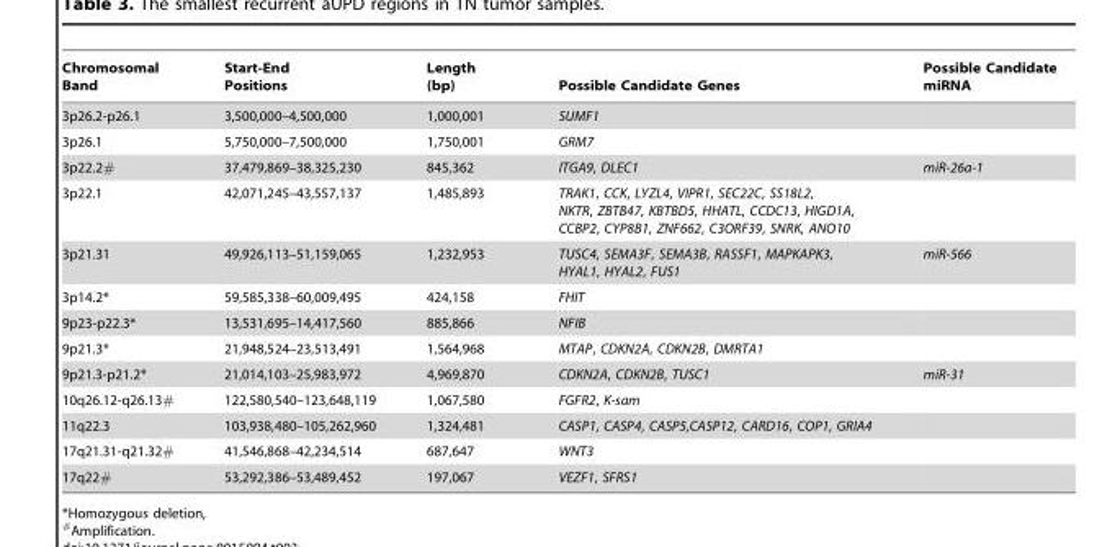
<table><thead><tr><td>Chromosomal Band</td><td>Start-End Positions</td><td>Length (bp)</td><td>Possible Candidate Genes</td><td>Possible Candidate miRNA</td></tr></thead><tbody><tr><td>3p26.2-p26.1</td><td>3,500,000–4,500,000</td><td>1,000,001</td><td>SUMF1</td><td></td></tr><tr><td>3p26.1</td><td>5,750,000–7,500,000</td><td>1,750,001</td><td>GRM7</td><td></td></tr><tr><td>3p22.2#</td><td>37,479,869–38,325,230</td><td>845,362</td><td>ITGA9, DLEC1</td><td>miR-26a-1</td></tr><tr><td>3p22.1</td><td>42,071,245–43,557,137</td><td>1,485,893</td><td>TRAK1, CCK, LYZL4, VIPR1, SEC22C, SS18L2, NKTR, ZBTB47, KBTBD5, HHATL, CCDC13, HIGD1A, CCBP2, CYP8B1, ZNF662, C3ORF39, SNRK, ANO10</td><td></td></tr><tr><td>3p21.31</td><td>49,926,113–51,159,065</td><td>1,232,953</td><td>TUSC4, SEMA3F, SEMA3B, RASSF1, MAPKAPK3, HYAL1, HYAL2, FUS1</td><td>miR-566</td></tr><tr><td>3p14.2*</td><td>59,585,338–60,009,495</td><td>424,158</td><td>FHIT</td><td></td></tr><tr><td>9p23-p22.3*</td><td>13,531,695–14,417,560</td><td>885,866</td><td>NFIB</td><td></td></tr><tr><td>9p21.3*</td><td>21,948,524–23,513,491</td><td>1,564,968</td><td>MTAP, CDKN2A, CDKN2B, DMRTA1</td><td></td></tr><tr><td>9p21.3-p21.2*</td><td>21,014,103–25,983,972</td><td>4,969,870</td><td>CDKN2A, CDKN2B, TUSC1</td><td>miR-31</td></tr><tr><td>10q26.12-q26.13#</td><td>122,580,540–123,648,119</td><td>1,067,580</td><td>FGFR2, K-sam</td><td></td></tr><tr><td>11q22.3</td><td>103,938,480–105,262,960</td><td>1,324,481</td><td>CASP1, CASP4, CASP5,CASP12, CARD16, COP1, GRIA4</td><td></td></tr><tr><td>17q21.31-q21.32#</td><td>41,546,868–42,234,514</td><td>687,647</td><td>WNT3</td><td></td></tr><tr><td>17q22#</td><td>53,292,386–53,489,452</td><td>197,067</td><td>VEZF1, SFRS1</td><td></td></tr></tbody></table>